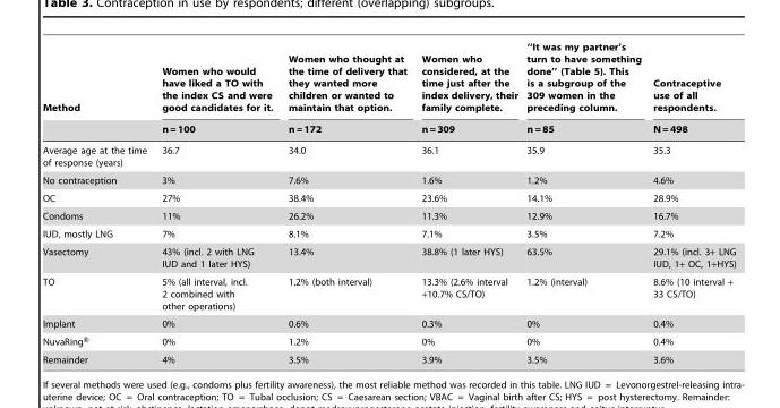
<table><thead><tr><td rowspan="2">Method</td><td rowspan="2">Women who would have liked a TO with the index CS and were good candidates for it. n = 100</td><td rowspan="2">Women who thought at the time of delivery that they wanted more children or wanted to maintain that option. n = 172</td><td rowspan="2">Women who considered, at the time just after the index delivery, their family complete. n = 309</td><td rowspan="2">‘‘It was my partner’s turn to have something done’’ (Table 5). This is a subgroup of the 309 women in the preceding column. n = 85</td><td rowspan="2">Contraceptive use of all respondents. N = 498</td></tr><tr></tr></thead><tbody><tr><td>Average age at the time of response (years)</td><td>36.7</td><td>34.0</td><td>36.1</td><td>35.9</td><td>35.3</td></tr><tr><td>No contraception</td><td>3%</td><td>7.6%</td><td>1.6%</td><td>1.2%</td><td>4.6%</td></tr><tr><td>OC</td><td>27%</td><td>38.4%</td><td>23.6%</td><td>14.1%</td><td>28.9%</td></tr><tr><td>Condoms</td><td>11%</td><td>26.2%</td><td>11.3%</td><td>12.9%</td><td>16.7%</td></tr><tr><td>IUD, mostly LNG</td><td>7%</td><td>8.1%</td><td>7.1%</td><td>3.5%</td><td>7.2%</td></tr><tr><td>Vasectomy</td><td>43% (incl. 2 with LNG IUD and 1 later HYS)</td><td>13.4%</td><td>38.8% (1 later HYS)</td><td>63.5%</td><td>29.1% (incl. 3+ LNG IUD, 1+ OC, 1+HYS)</td></tr><tr><td>TO</td><td>5% (all interval, incl. 2 combined with other operations)</td><td>1.2% (both interval)</td><td>13.3% (2.6% interval +10.7% CS/TO)</td><td>1.2% (interval)</td><td>8.6% (10 interval + 33 CS/TO)</td></tr><tr><td>Implant</td><td>0%</td><td>0.6%</td><td>0.3%</td><td>0%</td><td>0.4%</td></tr><tr><td>NuvaRing®</td><td>0%</td><td>1.2%</td><td>0%</td><td>0%</td><td>0.4%</td></tr><tr><td>Remainder</td><td>4%</td><td>3.5%</td><td>3.9%</td><td>3.5%</td><td>3.6%</td></tr></tbody></table>